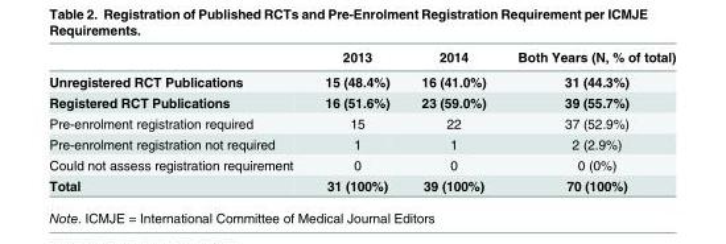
<table><thead><tr><td></td><td>2013</td><td>2014</td><td>Both Years (N, % of total)</td></tr></thead><tbody><tr><td>Unregistered RCT Publications</td><td>15 (48.4%)</td><td>16 (41.0%)</td><td>31 (44.3%)</td></tr><tr><td>Registered RCT Publications</td><td>16 (51.6%)</td><td>23 (59.0%)</td><td>39 (55.7%)</td></tr><tr><td>Pre-enrolment registration required</td><td>15</td><td>22</td><td>37 (52.9%)</td></tr><tr><td>Pre-enrolment registration not required</td><td>1</td><td>1</td><td>2 (2.9%)</td></tr><tr><td>Could not assess registration requirement</td><td>0</td><td>0</td><td>0 (0%)</td></tr><tr><td>Total</td><td>31 (100%)</td><td>39 (100%)</td><td>70 (100%)</td></tr></tbody></table>